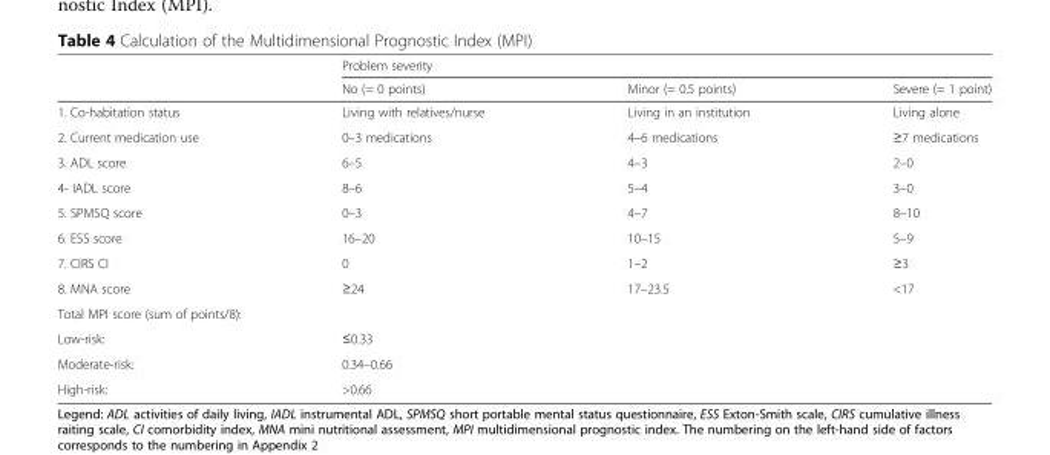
<table><thead><tr><td rowspan="2"></td><td colspan="3">Problem severity</td></tr><tr><td>No (= 0 points)</td><td>Minor (= 0.5 points)</td><td>Severe (= 1 point)</td></tr></thead><tbody><tr><td>1. Co-habitation status</td><td>Living with relatives/nurse</td><td>Living in an institution</td><td>Living alone</td></tr><tr><td>2. Current medication use</td><td>0–3 medications</td><td>4–6 medications</td><td>≥7 medications</td></tr><tr><td>3. ADL score</td><td>6–5</td><td>4–3</td><td>2–0</td></tr><tr><td>4- IADL score</td><td>8–6</td><td>5–4</td><td>3–0</td></tr><tr><td>5. SPMSQ score</td><td>0–3</td><td>4–7</td><td>8–10</td></tr><tr><td>6. ESS score</td><td>16–20</td><td>10–15</td><td>5–9</td></tr><tr><td>7. CIRS CI</td><td>0</td><td>1–2</td><td>≥3</td></tr><tr><td>8. MNA score</td><td>≥24</td><td>17–23.5</td><td>&lt;17</td></tr><tr><td colspan="4">Total MPI score (sum of points/8):</td></tr><tr><td>Low-risk:</td><td colspan="3">≤0.33</td></tr><tr><td>Moderate-risk:</td><td colspan="3">0.34–0.66</td></tr><tr><td>High-risk:</td><td colspan="3">&gt;0.66</td></tr></tbody></table>